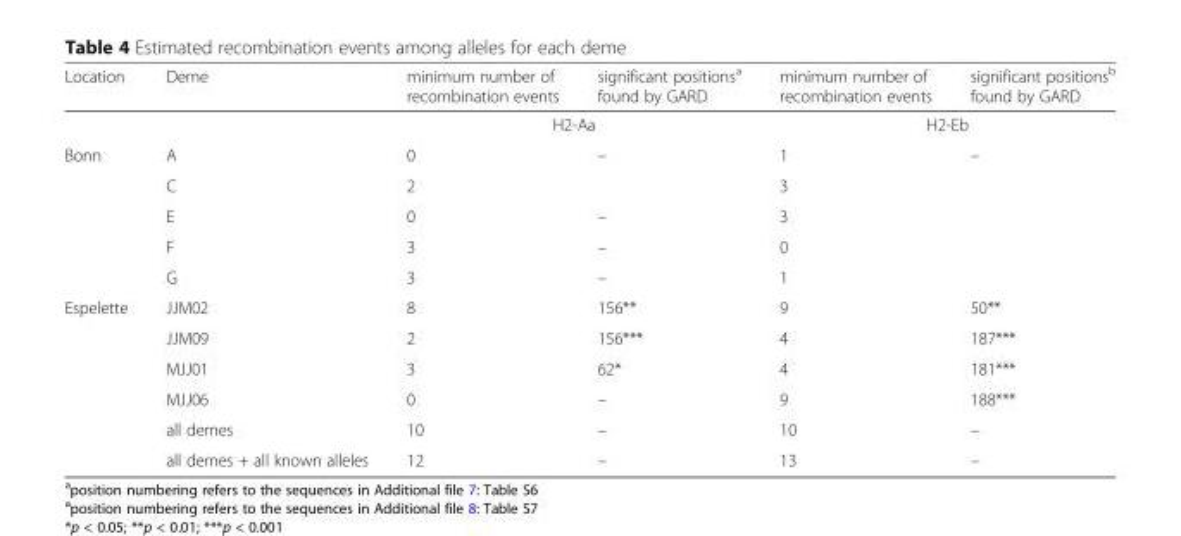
<table><thead><tr><td>Location</td><td>Deme</td><td>minimum number of recombination events</td><td>significant positions<sup>a</sup> found by GARD</td><td>minimum number of recombination events</td><td>significant positions<sup>b</sup> found by GARD</td></tr></thead><tbody><tr><td></td><td></td><td colspan="2">H2-Aa</td><td colspan="2">H2-Eb</td></tr><tr><td rowspan="5">Bonn</td><td>A</td><td>0</td><td>–</td><td>1</td><td>–</td></tr><tr><td>C</td><td>2</td><td></td><td>3</td><td></td></tr><tr><td>E</td><td>0</td><td>–</td><td>3</td><td></td></tr><tr><td>F</td><td>3</td><td>–</td><td>0</td><td></td></tr><tr><td>G</td><td>3</td><td>–</td><td>1</td><td></td></tr><tr><td rowspan="6">Espelette</td><td>JJM02</td><td>8</td><td>156**</td><td>9</td><td>50**</td></tr><tr><td>JJM09</td><td>2</td><td>156***</td><td>4</td><td>187***</td></tr><tr><td>MJJ01</td><td>3</td><td>62*</td><td>4</td><td>181***</td></tr><tr><td>MJJ06</td><td>0</td><td>–</td><td>9</td><td>188***</td></tr><tr><td>all demes</td><td>10</td><td>–</td><td>10</td><td>–</td></tr><tr><td>all demes + all known alleles</td><td>12</td><td>–</td><td>13</td><td>–</td></tr></tbody></table>